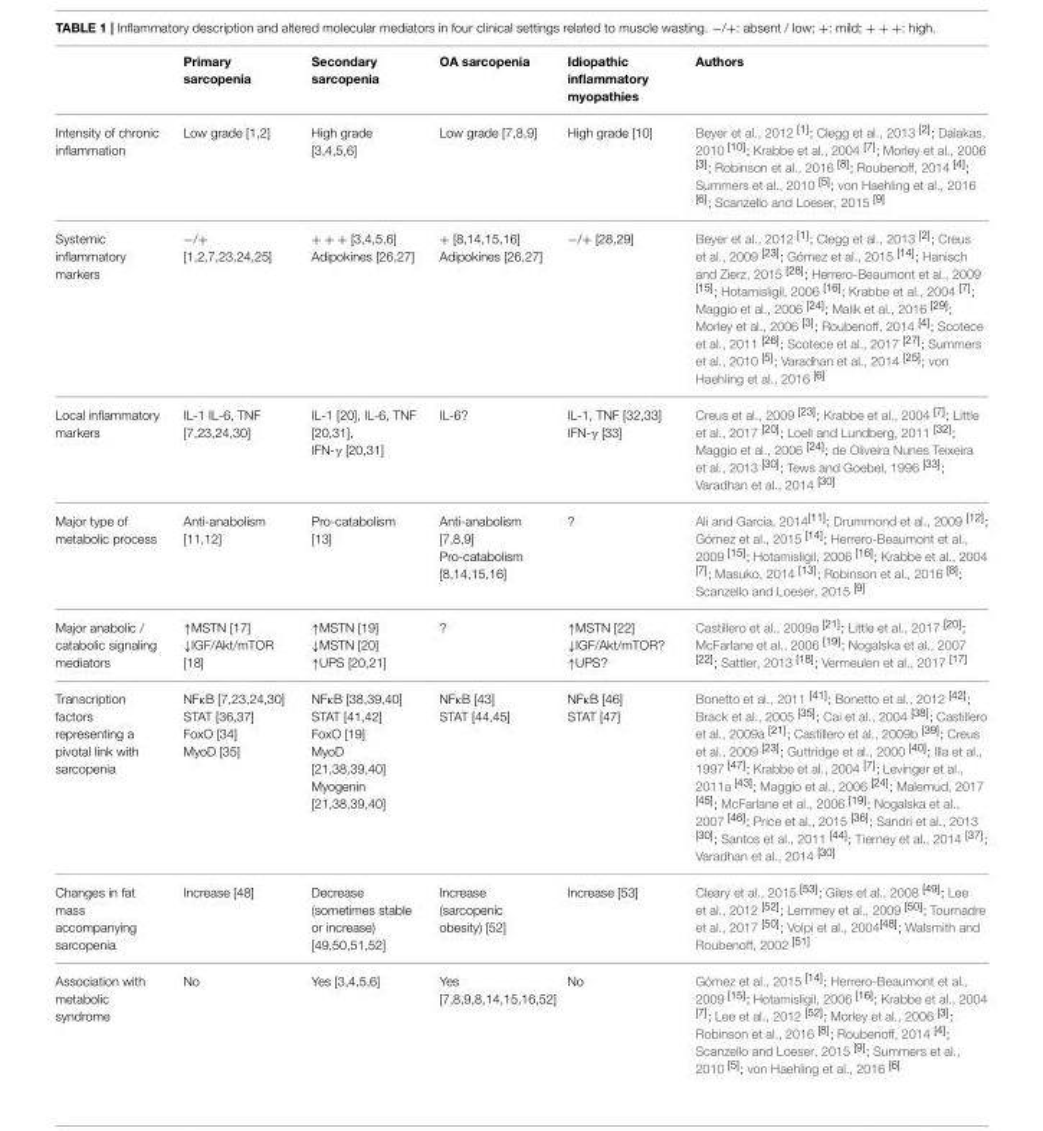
<table><thead><tr><td></td><td>Primary sarcopenia</td><td>Secondary sarcopenia</td><td>OA sarcopenia</td><td>Idiopathic inflammatory myopathies</td><td>Authors</td></tr></thead><tbody><tr><td>Intensity of chronic inflammation</td><td>Low grade [1,2]</td><td>High grade [3,4,5,6]</td><td>Low grade [7,8,9]</td><td>High grade [10]</td><td>Beyer et al., 2012 <sup>[1]</sup>; Clegg et al., 2013 <sup>[2]</sup>; Dalakas, 2010 <sup>[10]</sup>; Krabbe et al., 2004 <sup>[7]</sup>; Morley et al., 2006 <sup>[3]</sup>; Robinson et al., 2016 <sup>[8]</sup>; Roubenoff, 2014 <sup>[4]</sup>; Summers et al., 2010 <sup>[5]</sup>; von Haehling et al., 2016 <sup>[6]</sup>; Scanzello and Loeser, 2015 <sup>[9]</sup></td></tr><tr><td>Systemic inflammatory markers</td><td>−/+ [1,2,7,23,24,25]</td><td>+ + + [3,4,5,6] Adipokines [26,27]</td><td>+ [8,14,15,16] Adipokines [26,27]</td><td>−/+ [28,29]</td><td>Beyer et al., 2012 <sup>[1]</sup>; Clegg et al., 2013 <sup>[2]</sup>; Creus et al., 2009 <sup>[23]</sup>; Gómez et al., 2015 <sup>[14]</sup>; Hanisch and Zierz, 2015 <sup>[28]</sup>; Herrero-Beaumont et al., 2009 <sup>[15]</sup>; Hotamisligil, 2006 <sup>[16]</sup>; Krabbe et al., 2004 <sup>[7]</sup>; Maggio et al., 2006 <sup>[24]</sup>; Malik et al., 2016 <sup>[29]</sup>; Morley et al., 2006 <sup>[3]</sup>; Roubenoff, 2014 <sup>[4]</sup>; Scotece et al., 2011 <sup>[26]</sup>; Scotece et al., 2017 <sup>[27]</sup>; Summers et al., 2010 <sup>[5]</sup>; Varadhan et al., 2014 <sup>[25]</sup>; von Haehling et al., 2016 <sup>[6]</sup></td></tr><tr><td>Local inflammatory markers</td><td>IL-1 IL-6, TNF [7,23,24,30]</td><td>IL-1 [20], IL-6, TNF [20,31], IFN-γ [20,31]</td><td>IL-6?</td><td>IL-1, TNF [32,33] IFN-γ [33]</td><td>Creus et al., 2009 <sup>[23]</sup>; Krabbe et al., 2004 <sup>[7]</sup>; Little et al., 2017 <sup>[20]</sup>; Loell and Lundberg, 2011 <sup>[32]</sup>; Maggio et al., 2006 <sup>[24]</sup>; de Oliveira Nunes Teixeira et al., 2013 <sup>[30]</sup>; Tews and Goebel, 1996 <sup>[33]</sup>; Varadhan et al., 2014 <sup>[30]</sup></td></tr><tr><td>Major type of metabolic process</td><td>Anti-anabolism [11,12]</td><td>Pro-catabolism [13]</td><td>Anti-anabolism [7,8,9] Pro-catabolism [8,14,15,16]</td><td>?</td><td>Ali and Garcia, 2014<sup>[11]</sup>; Drummond et al., 2009 <sup>[12]</sup>; Gómez et al., 2015 <sup>[14]</sup>; Herrero-Beaumont et al., 2009 <sup>[15]</sup>; Hotamisligil, 2006 <sup>[16]</sup>; Krabbe et al., 2004 <sup>[7]</sup>; Masuko, 2014 <sup>[13]</sup>; Robinson et al., 2016 <sup>[8]</sup>; Scanzello and Loeser, 2015 <sup>[9]</sup></td></tr><tr><td>Major anabolic / catabolic signaling mediators</td><td>↑MSTN [17] ↓IGF/Akt/mTOR [18]</td><td>↑MSTN [19] ↓MSTN [20] ↑UPS [20,21]</td><td>?</td><td>↑MSTN [22] ↓IGF/Akt/mTOR? ↑UPS?</td><td>Castillero et al., 2009a <sup>[21]</sup>; Little et al., 2017 <sup>[20]</sup>; McFarlane et al., 2006 <sup>[19]</sup>; Nogalska et al., 2007 <sup>[22]</sup>; Sattler, 2013 <sup>[18]</sup>; Vermeulen et al., 2017 <sup>[17]</sup></td></tr><tr><td>Transcription factors representing a pivotal link with sarcopenia</td><td>NFκB [7,23,24,30] STAT [36,37] FoxO [34] MyoD [35]</td><td>NFκB [38,39,40] STAT [41,42] FoxO [19] MyoD [21,38,39,40] Myogenin [21,38,39,40]</td><td>NFκB [43] STAT [44,45]</td><td>NFκB [46] STAT [47]</td><td>Bonetto et al., 2011 <sup>[41]</sup>; Bonetto et al., 2012 <sup>[42]</sup>; Brack et al., 2005 <sup>[35]</sup>; Cai et al., 2004 <sup>[38]</sup>; Castillero et al., 2009a <sup>[21]</sup>; Castillero et al., 2009b <sup>[39]</sup>; Creus et al., 2009 <sup>[23]</sup>; Guttridge et al., 2000 <sup>[40]</sup>; Illa et al., 1997 <sup>[47]</sup>; Krabbe et al., 2004 <sup>[7]</sup>; Levinger et al., 2011a <sup>[43]</sup>; Maggio et al., 2006 <sup>[24]</sup>; Malemud, 2017 <sup>[45]</sup>; McFarlane et al., 2006 <sup>[19]</sup>; Nogalska et al., 2007 <sup>[46]</sup>; Price et al., 2015 <sup>[36]</sup>; Sandri et al., 2013 <sup>[30]</sup>; Santos et al., 2011 <sup>[44]</sup>; Tierney et al., 2014 <sup>[37]</sup>; Varadhan et al., 2014 <sup>[30]</sup></td></tr><tr><td>Changes in fat mass accompanying sarcopenia</td><td>Increase [48]</td><td>Decrease (sometimes stable or increase) [49,50,51,52]</td><td>Increase (sarcopenic obesity) [52]</td><td>Increase [53]</td><td>Cleary et al., 2015 <sup>[53]</sup>; Giles et al., 2008 <sup>[49]</sup>; Lee et al., 2012 <sup>[52]</sup>; Lemmey et al., 2009 <sup>[50]</sup>; Tournadre et al., 2017 <sup>[50]</sup>; Volpi et al., 2004<sup>[48]</sup>; Walsmith and Roubenoff, 2002 <sup>[51]</sup></td></tr><tr><td>Association with metabolic syndrome</td><td>No</td><td>Yes [3,4,5,6]</td><td>Yes [7,8,9,8,14,15,16,52]</td><td>No</td><td>Gómez et al., 2015 <sup>[14]</sup>; Herrero-Beaumont et al., 2009 <sup>[15]</sup>; Hotamisligil, 2006 <sup>[16]</sup>; Krabbe et al., 2004 <sup>[7]</sup>; Lee et al., 2012 <sup>[52]</sup>; Morley et al., 2006 <sup>[3]</sup>; Robinson et al., 2016 <sup>[8]</sup>; Roubenoff, 2014 <sup>[4]</sup>; Scanzello and Loeser, 2015 <sup>[9]</sup>; Summers et al., 2010 <sup>[5]</sup>; von Haehling et al., 2016 <sup>[6]</sup></td></tr></tbody></table>